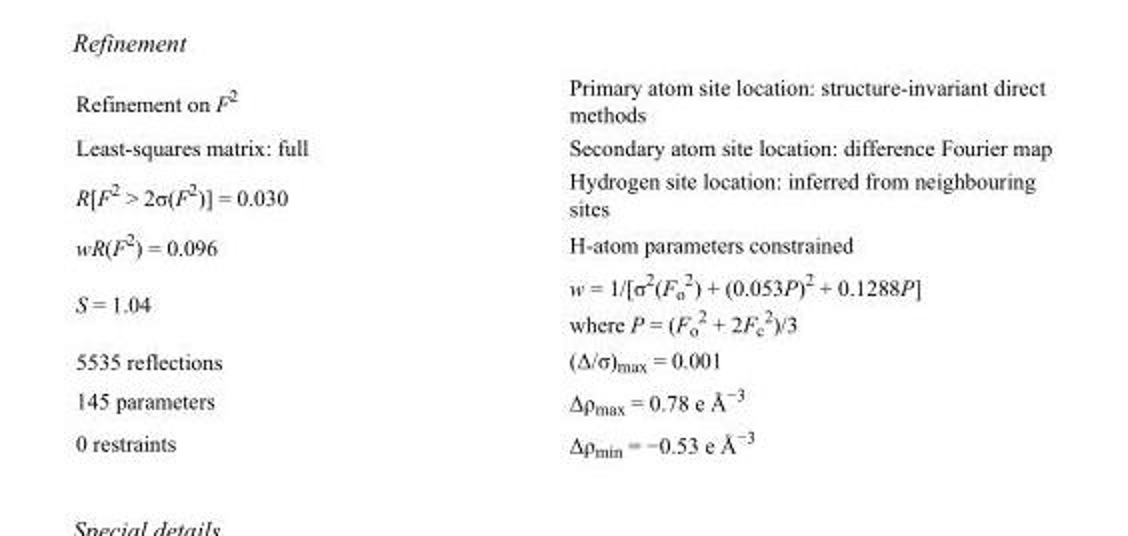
<table><tbody><tr><td>Refinement on F<sup>2</sup></td><td>Primary atom site location: structure-invariant direct methods</td></tr><tr><td>Least-squares matrix: full</td><td>Secondary atom site location: difference Fourier map</td></tr><tr><td>R[F<sup>2</sup> &gt; 2σ(F<sup>2</sup>)] = 0.030</td><td>Hydrogen site location: inferred from neighbouring sites</td></tr><tr><td>wR(F<sup>2</sup>) = 0.096</td><td>H-atom parameters constrained</td></tr><tr><td>S = 1.04</td><td>w = 1/[σ<sup>2</sup>(F<sub>o</sub> <sup>2</sup>) + (0.053P)<sup>2</sup> + 0.1288P] where P = (F<sub>o</sub> <sup>2</sup> + 2F<sub>c</sub> <sup>2</sup>)/3</td></tr><tr><td>5535 reflections</td><td>(Δ/σ)<sub>max</sub> = 0.001</td></tr><tr><td>145 parameters</td><td>Δρ<sub>max</sub> = 0.78 e Å<sup>−3</sup></td></tr><tr><td>0 restraints</td><td>Δρ<sub>min</sub> = −0.53 e Å<sup>−3</sup></td></tr></tbody></table>